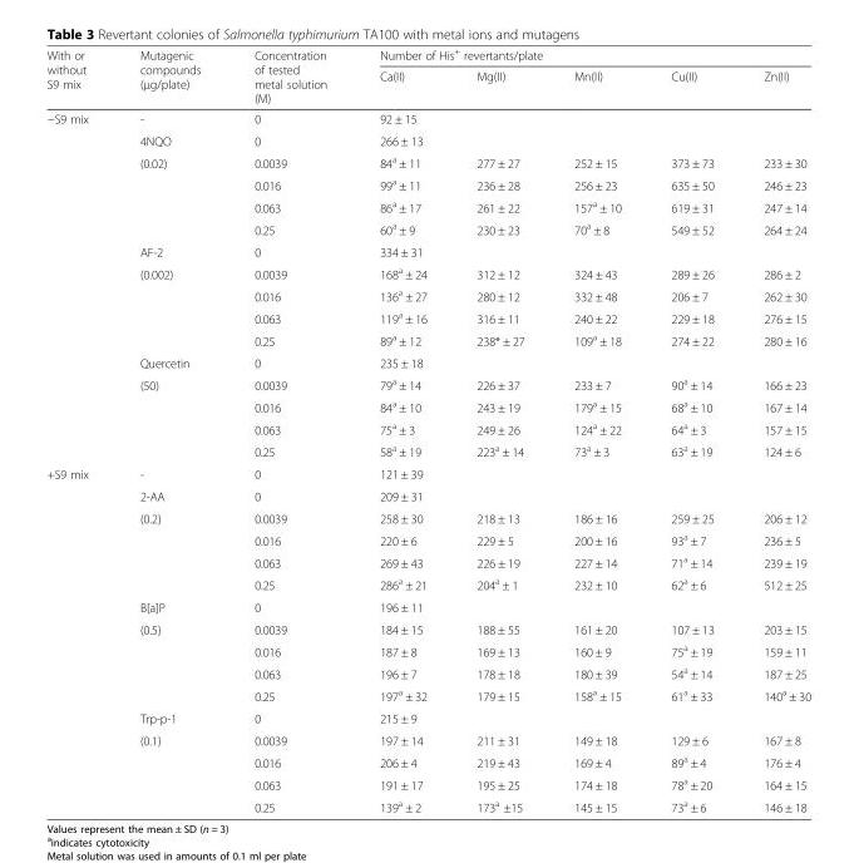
<table><thead><tr><td rowspan="2">With or without S9 mix</td><td rowspan="2">Mutagenic compounds (μg/plate)</td><td rowspan="2">Concentration of tested metal solution (M)</td><td colspan="5">Number of His<sup>+</sup> revertants/plate</td></tr><tr><td>Ca(II)</td><td>Mg(II)</td><td>Mn(II)</td><td>Cu(II)</td><td>Zn(II)</td></tr></thead><tbody><tr><td rowspan="16">−S9 mix</td><td>-</td><td>0</td><td>92 ± 15</td><td></td><td></td><td></td><td></td></tr><tr><td>4NQO</td><td>0</td><td>266 ± 13</td><td></td><td></td><td></td><td></td></tr><tr><td>(0.02)</td><td>0.0039</td><td>84<sup>a</sup> ± 11</td><td>277 ± 27</td><td>252 ± 15</td><td>373 ± 73</td><td>233 ± 30</td></tr><tr><td></td><td>0.016</td><td>99<sup>a</sup> ± 11</td><td>236 ± 28</td><td>256 ± 23</td><td>635 ± 50</td><td>246 ± 23</td></tr><tr><td></td><td>0.063</td><td>86<sup>a</sup> ± 17</td><td>261 ± 22</td><td>157<sup>a</sup> ± 10</td><td>619 ± 31</td><td>247 ± 14</td></tr><tr><td></td><td>0.25</td><td>60<sup>a</sup> ± 9</td><td>230 ± 23</td><td>70<sup>a</sup> ± 8</td><td>549 ± 52</td><td>264 ± 24</td></tr><tr><td>AF-2</td><td>0</td><td>334 ± 31</td><td></td><td></td><td></td><td></td></tr><tr><td>(0.002)</td><td>0.0039</td><td>168<sup>a</sup> ± 24</td><td>312 ± 12</td><td>324 ± 43</td><td>289 ± 26</td><td>286 ± 2</td></tr><tr><td></td><td>0.016</td><td>136<sup>a</sup> ± 27</td><td>280 ± 12</td><td>332 ± 48</td><td>206 ± 7</td><td>262 ± 30</td></tr><tr><td></td><td>0.063</td><td>119<sup>a</sup> ± 16</td><td>316 ± 11</td><td>240 ± 22</td><td>229 ± 18</td><td>276 ± 15</td></tr><tr><td></td><td>0.25</td><td>89<sup>a</sup> ± 12</td><td>238* ± 27</td><td>109<sup>a</sup> ± 18</td><td>274 ± 22</td><td>280 ± 16</td></tr><tr><td>Quercetin</td><td>0</td><td>235 ± 18</td><td></td><td></td><td></td><td></td></tr><tr><td>(50)</td><td>0.0039</td><td>79<sup>a</sup> ± 14</td><td>226 ± 37</td><td>233 ± 7</td><td>90<sup>a</sup> ± 14</td><td>166 ± 23</td></tr><tr><td></td><td>0.016</td><td>84<sup>a</sup> ± 10</td><td>243 ± 19</td><td>179<sup>a</sup> ± 15</td><td>68<sup>a</sup> ± 10</td><td>167 ± 14</td></tr><tr><td></td><td>0.063</td><td>75<sup>a</sup> ± 3</td><td>249 ± 26</td><td>124<sup>a</sup> ± 22</td><td>64<sup>a</sup> ± 3</td><td>157 ± 15</td></tr><tr><td></td><td>0.25</td><td>58<sup>a</sup> ± 19</td><td>223<sup>a</sup> ± 14</td><td>73<sup>a</sup> ± 3</td><td>63<sup>a</sup> ± 19</td><td>124 ± 6</td></tr><tr><td rowspan="16">+S9 mix</td><td>-</td><td>0</td><td>121 ± 39</td><td></td><td></td><td></td><td></td></tr><tr><td>2-AA</td><td>0</td><td>209 ± 31</td><td></td><td></td><td></td><td></td></tr><tr><td>(0.2)</td><td>0.0039</td><td>258 ± 30</td><td>218 ± 13</td><td>186 ± 16</td><td>259 ± 25</td><td>206 ± 12</td></tr><tr><td></td><td>0.016</td><td>220 ± 6</td><td>229 ± 5</td><td>200 ± 16</td><td>93<sup>a</sup> ± 7</td><td>236 ± 5</td></tr><tr><td></td><td>0.063</td><td>269 ± 43</td><td>226 ± 19</td><td>227 ± 14</td><td>71<sup>a</sup> ± 14</td><td>239 ± 19</td></tr><tr><td></td><td>0.25</td><td>286<sup>a</sup> ± 21</td><td>204<sup>a</sup> ± 1</td><td>232 ± 10</td><td>62<sup>a</sup> ± 6</td><td>512 ± 25</td></tr><tr><td>B[a]P</td><td>0</td><td>196 ± 11</td><td></td><td></td><td></td><td></td></tr><tr><td>(0.5)</td><td>0.0039</td><td>184 ± 15</td><td>188 ± 55</td><td>161 ± 20</td><td>107 ± 13</td><td>203 ± 15</td></tr><tr><td></td><td>0.016</td><td>187 ± 8</td><td>169 ± 13</td><td>160 ± 9</td><td>75<sup>a</sup> ± 19</td><td>159 ± 11</td></tr><tr><td></td><td>0.063</td><td>196 ± 7</td><td>178 ± 18</td><td>180 ± 39</td><td>54<sup>a</sup> ± 14</td><td>187 ± 25</td></tr><tr><td></td><td>0.25</td><td>197<sup>a</sup> ± 32</td><td>179 ± 15</td><td>158<sup>a</sup> ± 15</td><td>61<sup>a</sup> ± 33</td><td>140<sup>a</sup> ± 30</td></tr><tr><td>Trp-p-1</td><td>0</td><td>215 ± 9</td><td></td><td></td><td></td><td></td></tr><tr><td>(0.1)</td><td>0.0039</td><td>197 ± 14</td><td>211 ± 31</td><td>149 ± 18</td><td>129 ± 6</td><td>167 ± 8</td></tr><tr><td></td><td>0.016</td><td>206 ± 4</td><td>219 ± 43</td><td>169 ± 4</td><td>89<sup>a</sup> ± 4</td><td>176 ± 4</td></tr><tr><td></td><td>0.063</td><td>191 ± 17</td><td>195 ± 25</td><td>174 ± 18</td><td>78<sup>a</sup> ± 20</td><td>164 ± 15</td></tr><tr><td></td><td>0.25</td><td>139<sup>a</sup> ± 2</td><td>173<sup>a</sup> ±15</td><td>145 ± 15</td><td>73<sup>a</sup> ± 6</td><td>146 ± 18</td></tr></tbody></table>